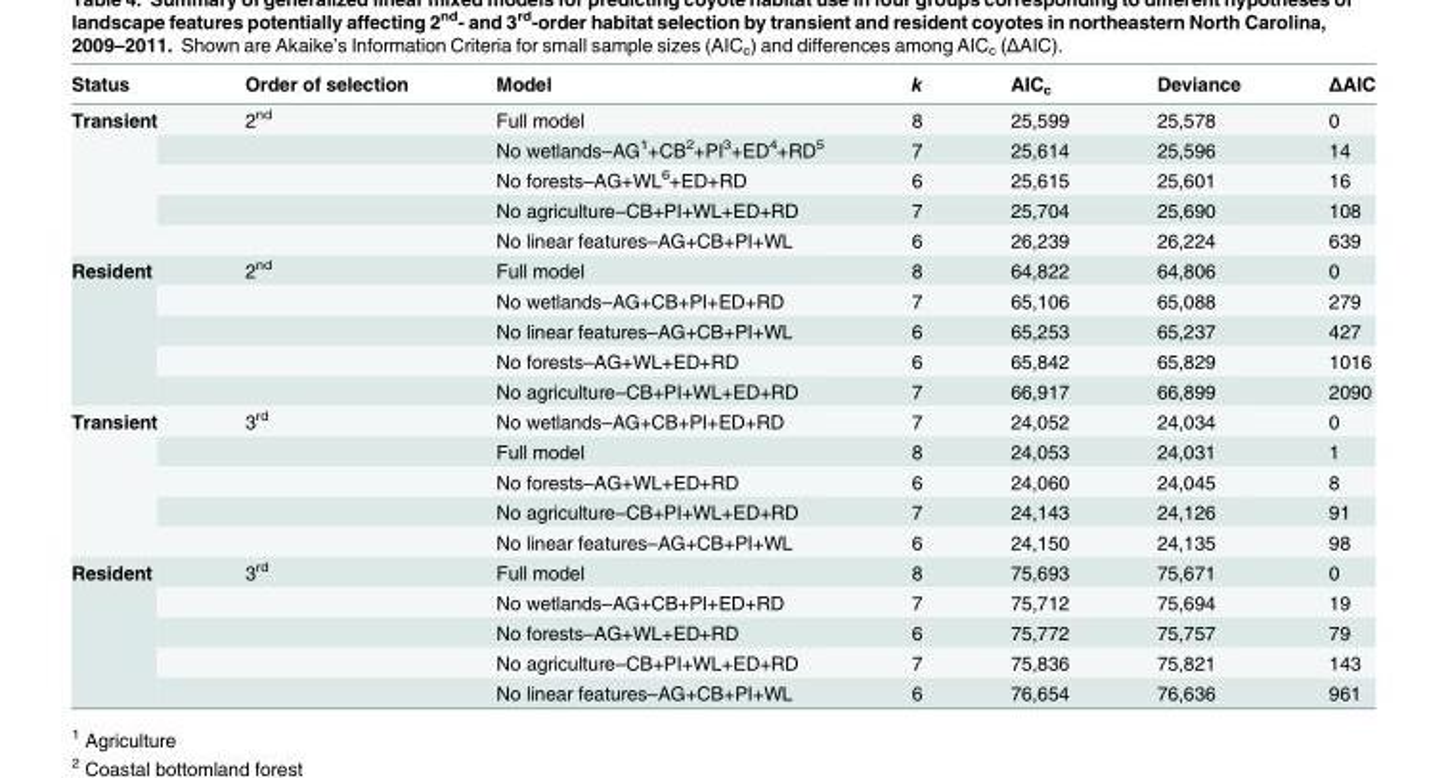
<table><thead><tr><td>Status</td><td>Order of selection</td><td>Model</td><td>k</td><td>AIC<sub>c</sub></td><td>Deviance</td><td>ΔAIC</td></tr></thead><tbody><tr><td rowspan="5">Transient</td><td>2<sup>nd</sup></td><td>Full model</td><td>8</td><td>25,599</td><td>25,578</td><td>0</td></tr><tr><td></td><td>No wetlands–AG<sup>1</sup>+CB<sup>2</sup>+PI<sup>3</sup>+ED<sup>4</sup>+RD<sup>5</sup></td><td>7</td><td>25,614</td><td>25,596</td><td>14</td></tr><tr><td></td><td>No forests–AG+WL<sup>6</sup>+ED+RD</td><td>6</td><td>25,615</td><td>25,601</td><td>16</td></tr><tr><td></td><td>No agriculture–CB+PI+WL+ED+RD</td><td>7</td><td>25,704</td><td>25,690</td><td>108</td></tr><tr><td></td><td>No linear features–AG+CB+PI+WL</td><td>6</td><td>26,239</td><td>26,224</td><td>639</td></tr><tr><td rowspan="5">Resident</td><td>2<sup>nd</sup></td><td>Full model</td><td>8</td><td>64,822</td><td>64,806</td><td>0</td></tr><tr><td></td><td>No wetlands–AG+CB+PI+ED+RD</td><td>7</td><td>65,106</td><td>65,088</td><td>279</td></tr><tr><td></td><td>No linear features–AG+CB+PI+WL</td><td>6</td><td>65,253</td><td>65,237</td><td>427</td></tr><tr><td></td><td>No forests–AG+WL+ED+RD</td><td>6</td><td>65,842</td><td>65,829</td><td>1016</td></tr><tr><td></td><td>No agriculture–CB+PI+WL+ED+RD</td><td>7</td><td>66,917</td><td>66,899</td><td>2090</td></tr><tr><td rowspan="5">Transient</td><td>3<sup>rd</sup></td><td>No wetlands–AG+CB+PI+ED+RD</td><td>7</td><td>24,052</td><td>24,034</td><td>0</td></tr><tr><td></td><td>Full model</td><td>8</td><td>24,053</td><td>24,031</td><td>1</td></tr><tr><td></td><td>No forests–AG+WL+ED+RD</td><td>6</td><td>24,060</td><td>24,045</td><td>8</td></tr><tr><td></td><td>No agriculture–CB+PI+WL+ED+RD</td><td>7</td><td>24,143</td><td>24,126</td><td>91</td></tr><tr><td></td><td>No linear features–AG+CB+PI+WL</td><td>6</td><td>24,150</td><td>24,135</td><td>98</td></tr><tr><td rowspan="5">Resident</td><td>3<sup>rd</sup></td><td>Full model</td><td>8</td><td>75,693</td><td>75,671</td><td>0</td></tr><tr><td></td><td>No wetlands–AG+CB+PI+ED+RD</td><td>7</td><td>75,712</td><td>75,694</td><td>19</td></tr><tr><td></td><td>No forests–AG+WL+ED+RD</td><td>6</td><td>75,772</td><td>75,757</td><td>79</td></tr><tr><td></td><td>No agriculture–CB+PI+WL+ED+RD</td><td>7</td><td>75,836</td><td>75,821</td><td>143</td></tr><tr><td></td><td>No linear features–AG+CB+PI+WL</td><td>6</td><td>76,654</td><td>76,636</td><td>961</td></tr></tbody></table>